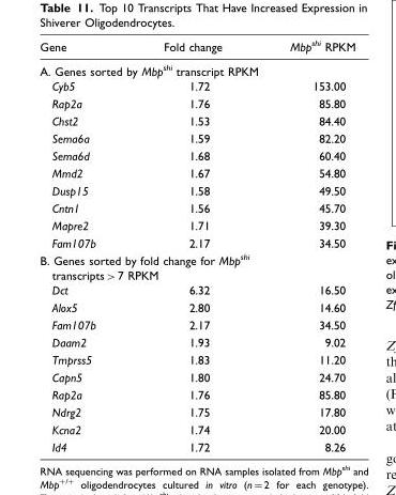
<table><thead><tr><td>Gene</td><td>Fold change</td><td>Mbp<sup>shi</sup> RPKM</td></tr></thead><tbody><tr><td colspan="3">A. Genes sorted by Mbp<sup>shi</sup> transcript RPKM</td></tr><tr><td>Cyb5</td><td>1.72</td><td>153.00</td></tr><tr><td>Rap2a</td><td>1.76</td><td>85.80</td></tr><tr><td>Chst2</td><td>1.53</td><td>84.40</td></tr><tr><td>Sema6a</td><td>1.59</td><td>82.20</td></tr><tr><td>Sema6d</td><td>1.68</td><td>60.40</td></tr><tr><td>Mmd2</td><td>1.67</td><td>54.80</td></tr><tr><td>Dusp15</td><td>1.58</td><td>49.50</td></tr><tr><td>Cntn1</td><td>1.56</td><td>45.70</td></tr><tr><td>Mapre2</td><td>1.71</td><td>39.30</td></tr><tr><td>Fam107b</td><td>2.17</td><td>34.50</td></tr><tr><td colspan="3">B. Genes sorted by fold change for Mbp<sup>shi</sup> transcripts &gt; 7 RPKM</td></tr><tr><td>Dct</td><td>6.32</td><td>16.50</td></tr><tr><td>Alox5</td><td>2.80</td><td>14.60</td></tr><tr><td>Fam107b</td><td>2.17</td><td>34.50</td></tr><tr><td>Daam2</td><td>1.93</td><td>9.02</td></tr><tr><td>Tmprss5</td><td>1.83</td><td>11.20</td></tr><tr><td>Capn5</td><td>1.80</td><td>24.70</td></tr><tr><td>Rap2a</td><td>1.76</td><td>85.80</td></tr><tr><td>Ndrg2</td><td>1.75</td><td>17.80</td></tr><tr><td>Kcna2</td><td>1.74</td><td>20.00</td></tr><tr><td>Id4</td><td>1.72</td><td>8.26</td></tr></tbody></table>